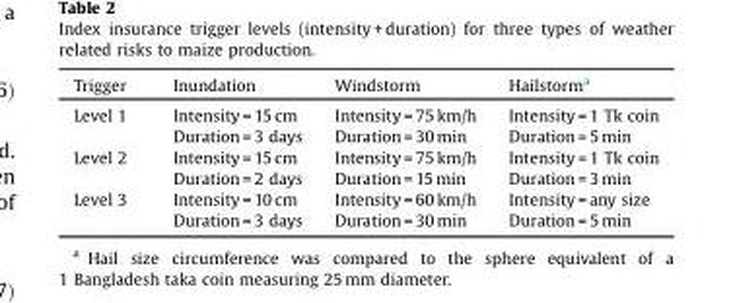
<table><thead><tr><td>Trigger</td><td>Inundation</td><td>Windstorm</td><td>Hailstorm<sup>a</sup></td></tr></thead><tbody><tr><td>Level 1</td><td>Intensity = 15 cm Duration = 3 days</td><td>Intensity = 75 km/h Duration = 30 min</td><td>Intensity = 1 Tk coin Duration = 5 min</td></tr><tr><td>Level 2</td><td>Intensity = 15 cm Duration = 2 days</td><td>Intensity = 75 km/h Duration = 15 min</td><td>Intensity = 1 Tk coin Duration = 3 min</td></tr><tr><td>Level 3</td><td>Intensity = 10 cm Duration = 3 days</td><td>Intensity = 60 km/h Duration = 30 min</td><td>Intensity = any size Duration = 5 min</td></tr></tbody></table>